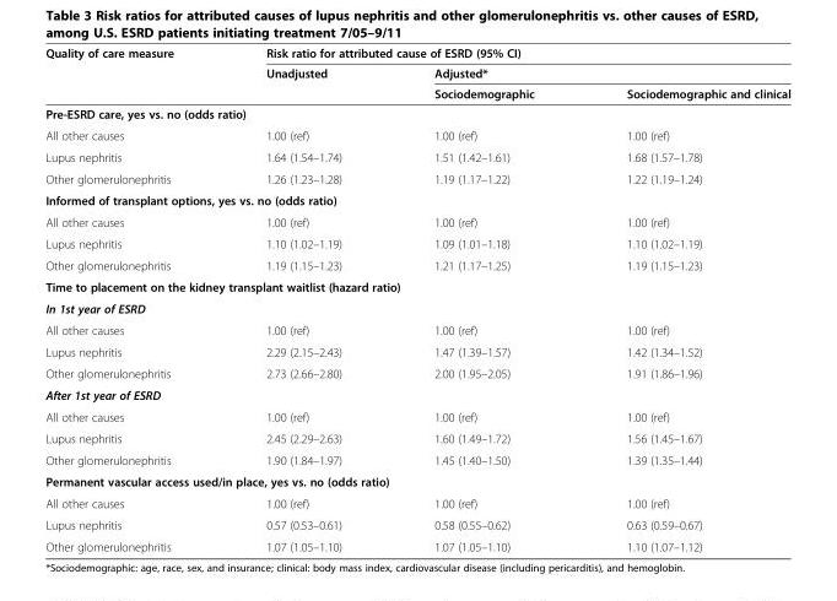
<table><thead><tr><td rowspan="3">Quality of care measure</td><td colspan="3">Risk ratio for attributed cause of ESRD (95% CI)</td></tr><tr><td rowspan="2">Unadjusted</td><td colspan="2">Adjusted*</td></tr><tr><td>Sociodemographic</td><td>Sociodemographic and clinical</td></tr></thead><tbody><tr><td colspan="4">Pre-ESRD care, yes vs. no (odds ratio)</td></tr><tr><td>All other causes</td><td>1.00 (ref)</td><td>1.00 (ref)</td><td>1.00 (ref)</td></tr><tr><td>Lupus nephritis</td><td>1.64 (1.54–1.74)</td><td>1.51 (1.42–1.61)</td><td>1.68 (1.57–1.78)</td></tr><tr><td>Other glomerulonephritis</td><td>1.26 (1.23–1.28)</td><td>1.19 (1.17–1.22)</td><td>1.22 (1.19–1.24)</td></tr><tr><td colspan="4">Informed of transplant options, yes vs. no (odds ratio)</td></tr><tr><td>All other causes</td><td>1.00 (ref)</td><td>1.00 (ref)</td><td>1.00 (ref)</td></tr><tr><td>Lupus nephritis</td><td>1.10 (1.02–1.19)</td><td>1.09 (1.01–1.18)</td><td>1.10 (1.02–1.19)</td></tr><tr><td>Other glomerulonephritis</td><td>1.19 (1.15–1.23)</td><td>1.21 (1.17–1.25)</td><td>1.19 (1.15–1.23)</td></tr><tr><td colspan="4">Time to placement on the kidney transplant waitlist (hazard ratio)</td></tr><tr><td colspan="4">In 1st year of ESRD</td></tr><tr><td>All other causes</td><td>1.00 (ref)</td><td>1.00 (ref)</td><td>1.00 (ref)</td></tr><tr><td>Lupus nephritis</td><td>2.29 (2.15–2.43)</td><td>1.47 (1.39–1.57)</td><td>1.42 (1.34–1.52)</td></tr><tr><td>Other glomerulonephritis</td><td>2.73 (2.66–2.80)</td><td>2.00 (1.95–2.05)</td><td>1.91 (1.86–1.96)</td></tr><tr><td colspan="4">After 1st year of ESRD</td></tr><tr><td>All other causes</td><td>1.00 (ref)</td><td>1.00 (ref)</td><td>1.00 (ref)</td></tr><tr><td>Lupus nephritis</td><td>2.45 (2.29–2.63)</td><td>1.60 (1.49–1.72)</td><td>1.56 (1.45–1.67)</td></tr><tr><td>Other glomerulonephritis</td><td>1.90 (1.84–1.97)</td><td>1.45 (1.40–1.50)</td><td>1.39 (1.35–1.44)</td></tr><tr><td colspan="4">Permanent vascular access used/in place, yes vs. no (odds ratio)</td></tr><tr><td>All other causes</td><td>1.00 (ref)</td><td>1.00 (ref)</td><td>1.00 (ref)</td></tr><tr><td>Lupus nephritis</td><td>0.57 (0.53–0.61)</td><td>0.58 (0.55–0.62)</td><td>0.63 (0.59–0.67)</td></tr><tr><td>Other glomerulonephritis</td><td>1.07 (1.05–1.10)</td><td>1.07 (1.05–1.10)</td><td>1.10 (1.07–1.12)</td></tr></tbody></table>